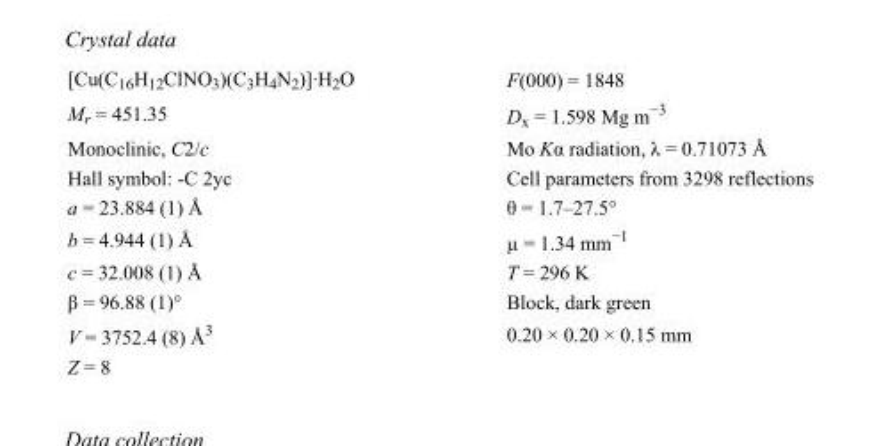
<table><tbody><tr><td>[Cu(C<sub>16</sub>H<sub>12</sub>ClNO<sub>3</sub>)(C<sub>3</sub>H<sub>4</sub>N<sub>2</sub>)]·H<sub>2</sub>O</td><td>F(000) = 1848</td></tr><tr><td>M<sub>r</sub> = 451.35</td><td>D<sub>x</sub> = 1.598 Mg m<sup>−3</sup></td></tr><tr><td>Monoclinic, C2/c</td><td>Mo Kα radiation, λ = 0.71073 Å</td></tr><tr><td>Hall symbol: -C 2yc</td><td>Cell parameters from 3298 reflections</td></tr><tr><td>a = 23.884 (1) Å</td><td>θ = 1.7–27.5°</td></tr><tr><td>b = 4.944 (1) Å</td><td>µ = 1.34 mm<sup>−1</sup></td></tr><tr><td>c = 32.008 (1) Å</td><td>T = 296 K</td></tr><tr><td>β = 96.88 (1)°</td><td>Block, dark green</td></tr><tr><td>V = 3752.4 (8) Å<sup>3</sup></td><td>0.20 × 0.20 × 0.15 mm</td></tr><tr><td>Z = 8</td><td></td></tr></tbody></table>